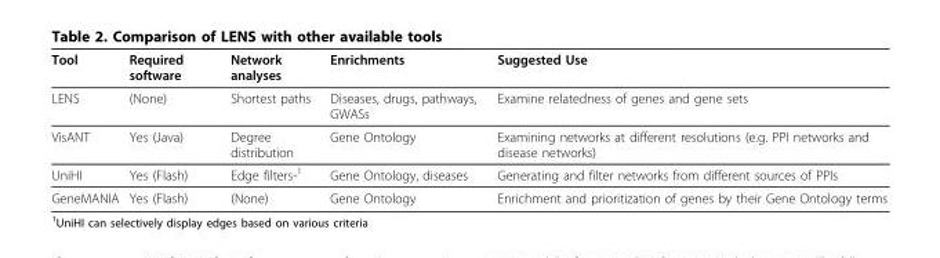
<table><thead><tr><td>Tool</td><td>Required software</td><td>Network analyses</td><td>Enrichments</td><td>Suggested Use</td></tr></thead><tbody><tr><td>LENS</td><td>(None)</td><td>Shortest paths</td><td>Diseases, drugs, pathways, GWASs</td><td>Examine relatedness of genes and gene sets</td></tr><tr><td>VisANT</td><td>Yes (Java)</td><td>Degree distribution</td><td>Gene Ontology</td><td>Examining networks at different resolutions (e.g. PPI networks and disease networks)</td></tr><tr><td>UniHI</td><td>Yes (Flash)</td><td>Edge filters-<sup>1</sup></td><td>Gene Ontology, diseases</td><td>Generating and filter networks from different sources of PPIs</td></tr><tr><td>GeneMANIA</td><td>Yes (Flash)</td><td>(None)</td><td>Gene Ontology</td><td>Enrichment and prioritization of genes by their Gene Ontology terms</td></tr></tbody></table>